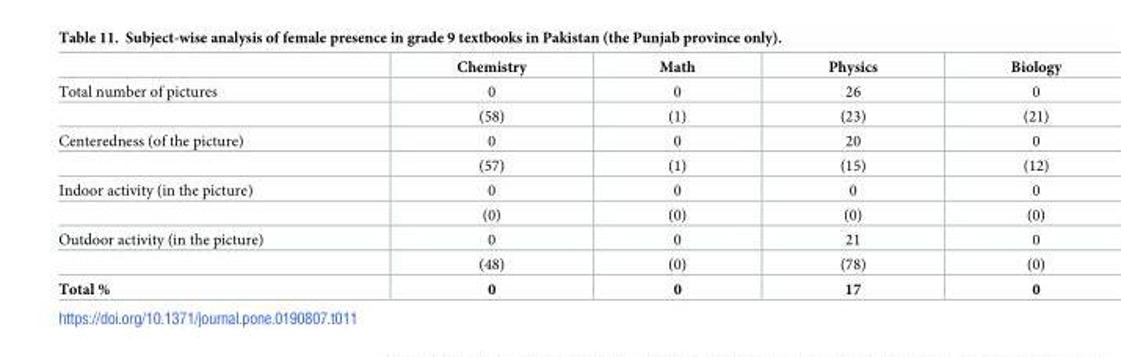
<table><thead><tr><td></td><td>Chemistry</td><td>Math</td><td>Physics</td><td>Biology</td></tr></thead><tbody><tr><td rowspan="2">Total number of pictures</td><td>0</td><td>0</td><td>26</td><td>0</td></tr><tr><td>(58)</td><td>(1)</td><td>(23)</td><td>(21)</td></tr><tr><td rowspan="2">Centeredness (of the picture)</td><td>0</td><td>0</td><td>20</td><td>0</td></tr><tr><td>(57)</td><td>(1)</td><td>(15)</td><td>(12)</td></tr><tr><td rowspan="2">Indoor activity (in the picture)</td><td>0</td><td>0</td><td>0</td><td>0</td></tr><tr><td>(0)</td><td>(0)</td><td>(0)</td><td>(0)</td></tr><tr><td rowspan="2">Outdoor activity (in the picture)</td><td>0</td><td>0</td><td>21</td><td>0</td></tr><tr><td>(48)</td><td>(0)</td><td>(78)</td><td>(0)</td></tr><tr><td>Total %</td><td>0</td><td>0</td><td>17</td><td>0</td></tr></tbody></table>